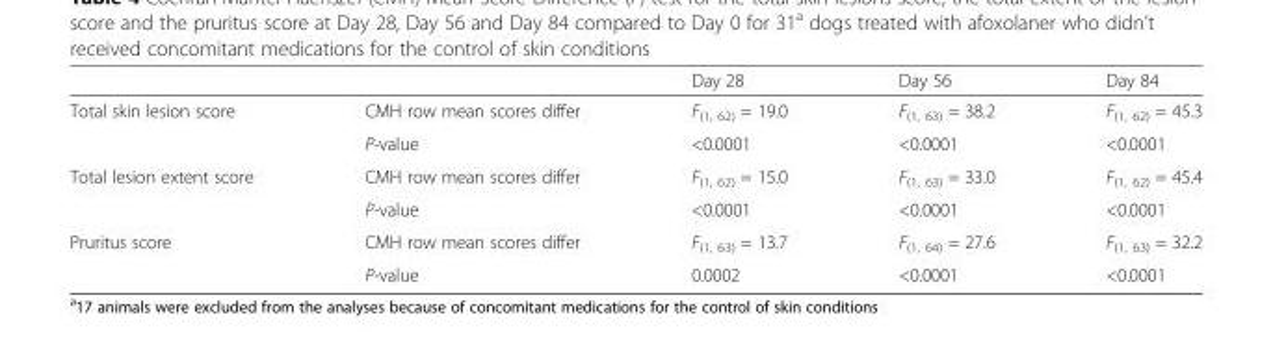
<table><thead><tr><td></td><td></td><td>Day 28</td><td>Day 56</td><td>Day 84</td></tr></thead><tbody><tr><td rowspan="2">Total skin lesion score</td><td>CMH row mean scores differ</td><td>F<sub>(1, 62)</sub> = 19.0</td><td>F<sub>(1, 63)</sub> = 38.2</td><td>F<sub>(1, 62)</sub> = 45.3</td></tr><tr><td>P-value</td><td>&lt;0.0001</td><td>&lt;0.0001</td><td>&lt;0.0001</td></tr><tr><td rowspan="2">Total lesion extent score</td><td>CMH row mean scores differ</td><td>F<sub>(1, 62)</sub> = 15.0</td><td>F<sub>(1, 63)</sub> = 33.0</td><td>F<sub>(1, 62)</sub> = 45.4</td></tr><tr><td>P-value</td><td>&lt;0.0001</td><td>&lt;0.0001</td><td>&lt;0.0001</td></tr><tr><td rowspan="2">Pruritus score</td><td>CMH row mean scores differ</td><td>F<sub>(1, 63)</sub> = 13.7</td><td>F<sub>(1, 64)</sub> = 27.6</td><td>F<sub>(1, 63)</sub> = 32.2</td></tr><tr><td>P-value</td><td>0.0002</td><td>&lt;0.0001</td><td>&lt;0.0001</td></tr></tbody></table>